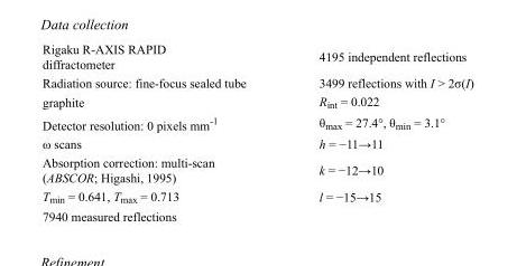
<table><tbody><tr><td>Rigaku R-AXIS RAPID diffractometer</td><td>4195 independent reflections</td></tr><tr><td>Radiation source: fine-focus sealed tube</td><td>3499 reflections with I &gt; 2σ(I)</td></tr><tr><td>graphite</td><td>R<sub>int</sub> = 0.022</td></tr><tr><td>Detector resolution: 0 pixels mm<sup>-1</sup></td><td>θ<sub>max</sub> = 27.4°, θ<sub>min</sub> = 3.1°</td></tr><tr><td>ω scans</td><td>h = −11→11</td></tr><tr><td>Absorption correction: multi-scan (ABSCOR; Higashi, 1995)</td><td>k = −12→10</td></tr><tr><td>T<sub>min</sub> = 0.641, T<sub>max</sub> = 0.713</td><td>l = −15→15</td></tr><tr><td>7940 measured reflections</td><td></td></tr></tbody></table>